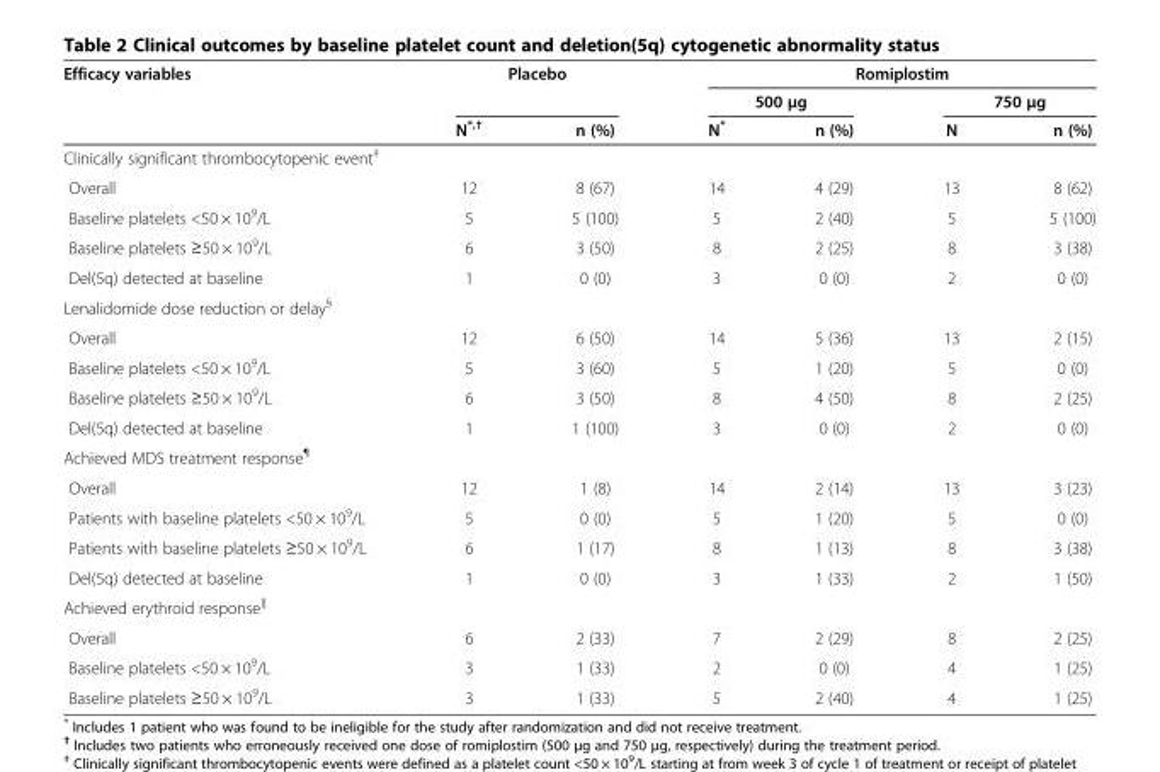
<table><thead><tr><td rowspan="3">Efficacy variables</td><td colspan="2">Placebo</td><td colspan="4">Romiplostim</td></tr><tr><td rowspan="2">N<sup>*,†</sup></td><td rowspan="2">n (%)</td><td colspan="2">500 μg</td><td colspan="2">750 μg</td></tr><tr><td>N*</td><td>n (%)</td><td>N</td><td>n (%)</td></tr></thead><tbody><tr><td colspan="7">Clinically significant thrombocytopenic event<sup>‡</sup></td></tr><tr><td>Overall</td><td>12</td><td>8 (67)</td><td>14</td><td>4 (29)</td><td>13</td><td>8 (62)</td></tr><tr><td>Baseline platelets &lt;50 × 10<sup>9</sup>/L</td><td>5</td><td>5 (100)</td><td>5</td><td>2 (40)</td><td>5</td><td>5 (100)</td></tr><tr><td>Baseline platelets ≥50 × 10<sup>9</sup>/L</td><td>6</td><td>3 (50)</td><td>8</td><td>2 (25)</td><td>8</td><td>3 (38)</td></tr><tr><td>Del(5q) detected at baseline</td><td>1</td><td>0 (0)</td><td>3</td><td>0 (0)</td><td>2</td><td>0 (0)</td></tr><tr><td colspan="7">Lenalidomide dose reduction or delay<sup>§</sup></td></tr><tr><td>Overall</td><td>12</td><td>6 (50)</td><td>14</td><td>5 (36)</td><td>13</td><td>2 (15)</td></tr><tr><td>Baseline platelets &lt;50 × 10<sup>9</sup>/L</td><td>5</td><td>3 (60)</td><td>5</td><td>1 (20)</td><td>5</td><td>0 (0)</td></tr><tr><td>Baseline platelets ≥50 × 10<sup>9</sup>/L</td><td>6</td><td>3 (50)</td><td>8</td><td>4 (50)</td><td>8</td><td>2 (25)</td></tr><tr><td>Del(5q) detected at baseline</td><td>1</td><td>1 (100)</td><td>3</td><td>0 (0)</td><td>2</td><td>0 (0)</td></tr><tr><td colspan="7">Achieved MDS treatment response<sup>¶</sup></td></tr><tr><td>Overall</td><td>12</td><td>1 (8)</td><td>14</td><td>2 (14)</td><td>13</td><td>3 (23)</td></tr><tr><td>Patients with baseline platelets &lt;50 × 10<sup>9</sup>/L</td><td>5</td><td>0 (0)</td><td>5</td><td>1 (20)</td><td>5</td><td>0 (0)</td></tr><tr><td>Patients with baseline platelets ≥50 × 10<sup>9</sup>/L</td><td>6</td><td>1 (17)</td><td>8</td><td>1 (13)</td><td>8</td><td>3 (38)</td></tr><tr><td>Del(5q) detected at baseline</td><td>1</td><td>0 (0)</td><td>3</td><td>1 (33)</td><td>2</td><td>1 (50)</td></tr><tr><td colspan="7">Achieved erythroid response<sup>∥</sup></td></tr><tr><td>Overall</td><td>6</td><td>2 (33)</td><td>7</td><td>2 (29)</td><td>8</td><td>2 (25)</td></tr><tr><td>Baseline platelets &lt;50 × 10<sup>9</sup>/L</td><td>3</td><td>1 (33)</td><td>2</td><td>0 (0)</td><td>4</td><td>1 (25)</td></tr><tr><td>Baseline platelets ≥50 × 10<sup>9</sup>/L</td><td>3</td><td>1 (33)</td><td>5</td><td>2 (40)</td><td>4</td><td>1 (25)</td></tr></tbody></table>